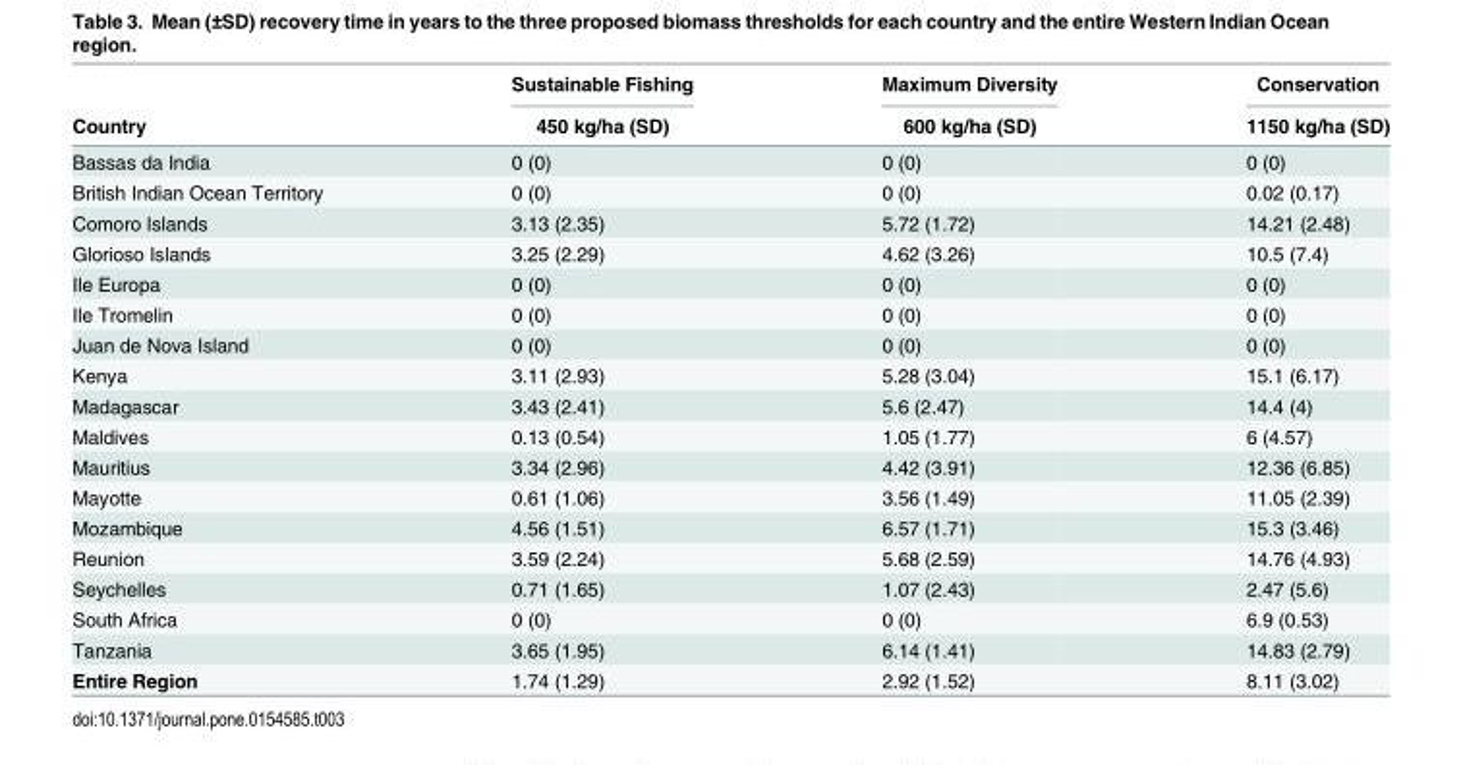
<table><thead><tr><td rowspan="2">Country</td><td rowspan="2">Sustainable Fishing 450 kg/ha (SD)</td><td rowspan="2">Maximum Diversity 600 kg/ha (SD)</td><td rowspan="2">Conservation 1150 kg/ha (SD)</td></tr><tr></tr></thead><tbody><tr><td>Bassas da India</td><td>0 (0)</td><td>0 (0)</td><td>0 (0)</td></tr><tr><td>British Indian Ocean Territory</td><td>0 (0)</td><td>0 (0)</td><td>0.02 (0.17)</td></tr><tr><td>Comoro Islands</td><td>3.13 (2.35)</td><td>5.72 (1.72)</td><td>14.21 (2.48)</td></tr><tr><td>Glorioso Islands</td><td>3.25 (2.29)</td><td>4.62 (3.26)</td><td>10.5 (7.4)</td></tr><tr><td>Ile Europa</td><td>0 (0)</td><td>0 (0)</td><td>0 (0)</td></tr><tr><td>Ile Tromelin</td><td>0 (0)</td><td>0 (0)</td><td>0 (0)</td></tr><tr><td>Juan de Nova Island</td><td>0 (0)</td><td>0 (0)</td><td>0 (0)</td></tr><tr><td>Kenya</td><td>3.11 (2.93)</td><td>5.28 (3.04)</td><td>15.1 (6.17)</td></tr><tr><td>Madagascar</td><td>3.43 (2.41)</td><td>5.6 (2.47)</td><td>14.4 (4)</td></tr><tr><td>Maldives</td><td>0.13 (0.54)</td><td>1.05 (1.77)</td><td>6 (4.57)</td></tr><tr><td>Mauritius</td><td>3.34 (2.96)</td><td>4.42 (3.91)</td><td>12.36 (6.85)</td></tr><tr><td>Mayotte</td><td>0.61 (1.06)</td><td>3.56 (1.49)</td><td>11.05 (2.39)</td></tr><tr><td>Mozambique</td><td>4.56 (1.51)</td><td>6.57 (1.71)</td><td>15.3 (3.46)</td></tr><tr><td>Reunion</td><td>3.59 (2.24)</td><td>5.68 (2.59)</td><td>14.76 (4.93)</td></tr><tr><td>Seychelles</td><td>0.71 (1.65)</td><td>1.07 (2.43)</td><td>2.47 (5.6)</td></tr><tr><td>South Africa</td><td>0 (0)</td><td>0 (0)</td><td>6.9 (0.53)</td></tr><tr><td>Tanzania</td><td>3.65 (1.95)</td><td>6.14 (1.41)</td><td>14.83 (2.79)</td></tr><tr><td>Entire Region</td><td>1.74 (1.29)</td><td>2.92 (1.52)</td><td>8.11 (3.02)</td></tr></tbody></table>